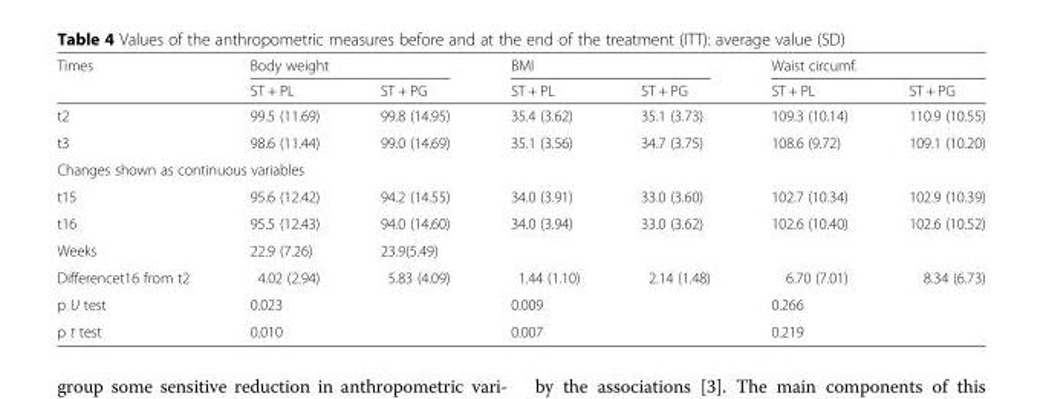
<table><thead><tr><td rowspan="2">Times</td><td colspan="2">Body weight</td><td colspan="2">BMI</td><td colspan="2">Waist circumf.</td></tr><tr><td>ST + PL</td><td>ST + PG</td><td>ST + PL</td><td>ST + PG</td><td>ST + PL</td><td>ST + PG</td></tr></thead><tbody><tr><td>t2</td><td>99.5 (11.69)</td><td>99.8 (14.95)</td><td>35.4 (3.62)</td><td>35.1 (3.73)</td><td>109.3 (10.14)</td><td>110.9 (10.55)</td></tr><tr><td>t3</td><td>98.6 (11.44)</td><td>99.0 (14.69)</td><td>35.1 (3.56)</td><td>34.7 (3.75)</td><td>108.6 (9.72)</td><td>109.1 (10.20)</td></tr><tr><td colspan="7">Changes shown as continuous variables</td></tr><tr><td>t15</td><td>95.6 (12.42)</td><td>94.2 (14.55)</td><td>34.0 (3.91)</td><td>33.0 (3.60)</td><td>102.7 (10.34)</td><td>102.9 (10.39)</td></tr><tr><td>t16</td><td>95.5 (12.43)</td><td>94.0 (14.60)</td><td>34.0 (3.94)</td><td>33.0 (3.62)</td><td>102.6 (10.40)</td><td>102.6 (10.52)</td></tr><tr><td>Weeks</td><td>22.9 (7.26)</td><td>23.9(5.49)</td><td></td><td></td><td></td><td></td></tr><tr><td>Differencet16 from t2</td><td>4.02 (2.94)</td><td>5.83 (4.09)</td><td>1.44 (1.10)</td><td>2.14 (1.48)</td><td>6.70 (7.01)</td><td>8.34 (6.73)</td></tr><tr><td>p U test</td><td colspan="2">0.023</td><td colspan="2">0.009</td><td colspan="2">0.266</td></tr><tr><td>p t test</td><td colspan="2">0.010</td><td colspan="2">0.007</td><td colspan="2">0.219</td></tr></tbody></table>